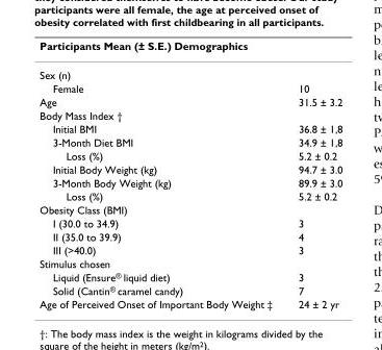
<table><thead><tr><td colspan="2">Participants Mean (± S.E.) Demographics</td></tr><tr><td>Sex (n)</td><td></td></tr></thead><tbody><tr><td>Female</td><td>10</td></tr><tr><td>Age</td><td>31.5 ± 3.2</td></tr><tr><td colspan="2">Body Mass Index †</td></tr><tr><td>Initial BMI</td><td>36.8 ± 1,8</td></tr><tr><td>3-Month Diet BMI</td><td>34.9 ± 1,8</td></tr><tr><td>Loss (%)</td><td>5.2 ± 0.2</td></tr><tr><td>Initial Body Weight (kg)</td><td>94.7 ± 3.0</td></tr><tr><td>3-Month Body Weight (kg)</td><td>89.9 ± 3.0</td></tr><tr><td>Loss (%)</td><td>5.2 ± 0.2</td></tr><tr><td colspan="2">Obesity Class (BMI)</td></tr><tr><td>I (30.0 to 34.9)</td><td>3</td></tr><tr><td>II (35.0 to 39.9)</td><td>4</td></tr><tr><td>III (&gt;40.0)</td><td>3</td></tr><tr><td colspan="2">Stimulus chosen</td></tr><tr><td>Liquid (Ensure<sup>®</sup> liquid diet)</td><td>3</td></tr><tr><td>Solid (Cantin<sup>®</sup> caramel candy)</td><td>7</td></tr><tr><td>Age of Perceived Onset of Important Body Weight ‡</td><td>24 ± 2 yr</td></tr></tbody></table>